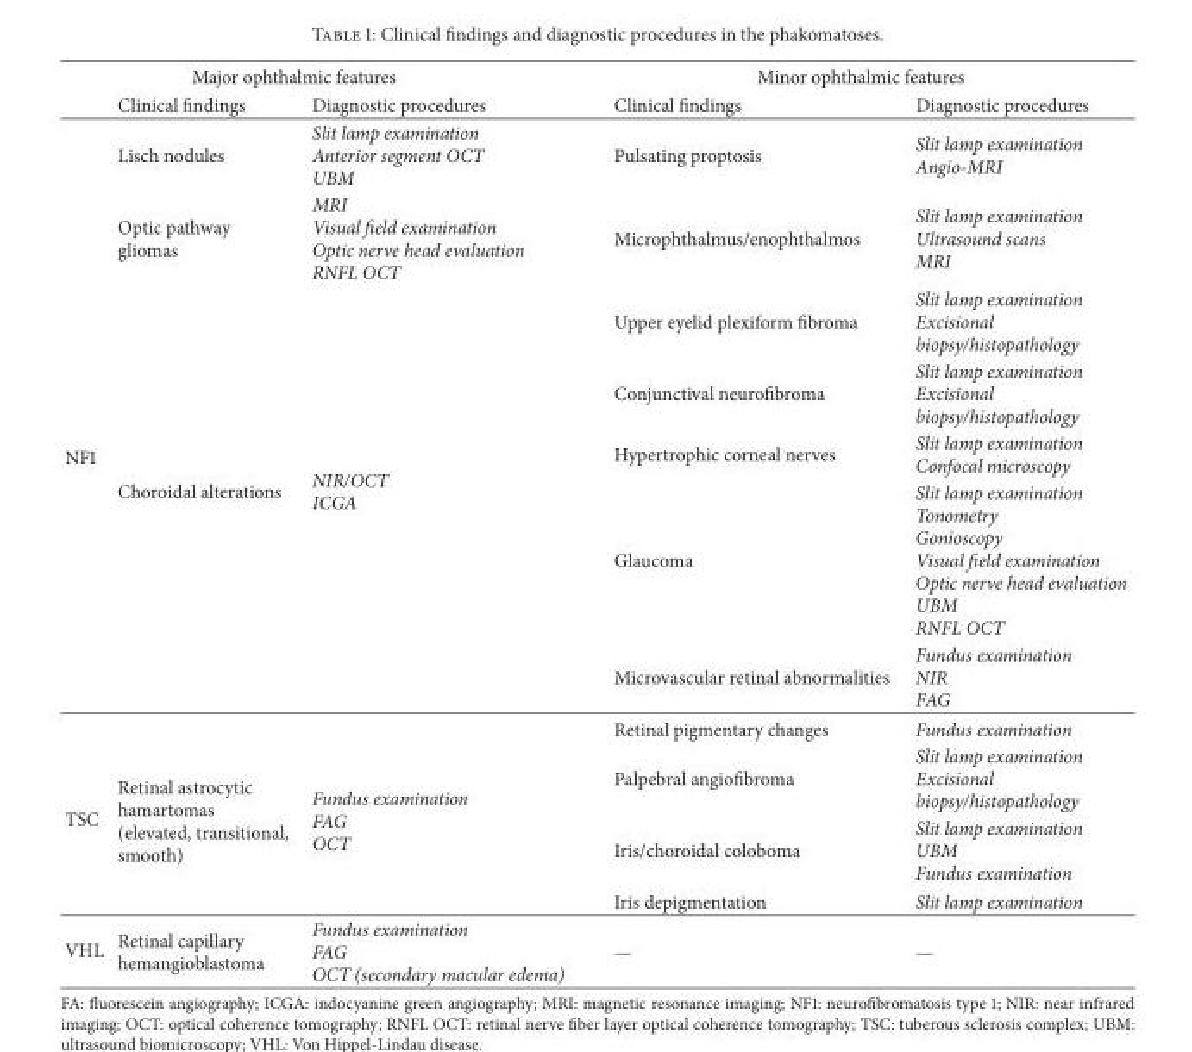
<table><thead><tr><td rowspan="2"></td><td colspan="2">Major ophthalmic features</td><td colspan="2">Minor ophthalmic features</td></tr><tr><td>Clinical findings</td><td>Diagnostic procedures</td><td>Clinical findings</td><td>Diagnostic procedures</td></tr></thead><tbody><tr><td rowspan="7">NF1</td><td>Lisch nodules</td><td>Slit lamp examination Anterior segment OCT UBM</td><td>Pulsating proptosis</td><td>Slit lamp examination Angio-MRI</td></tr><tr><td>Optic pathway gliomas</td><td>MRI Visual field examination Optic nerve head evaluation RNFL OCT</td><td>Microphthalmus/enophthalmos</td><td>Slit lamp examination Ultrasound scans MRI</td></tr><tr><td rowspan="5">Choroidal alterations</td><td rowspan="5">NIR/OCT ICGA</td><td>Upper eyelid plexiform fibroma</td><td>Slit lamp examination Excisional biopsy/histopathology</td></tr><tr><td>Conjunctival neurofibroma</td><td>Slit lamp examination Excisional biopsy/histopathology</td></tr><tr><td>Hypertrophic corneal nerves</td><td>Slit lamp examination Confocal microscopy</td></tr><tr><td>Glaucoma</td><td>Slit lamp examination Tonometry Gonioscopy Visual field examination Optic nerve head evaluation UBM RNFL OCT</td></tr><tr><td>Microvascular retinal abnormalities</td><td>Fundus examination NIR FAG</td></tr><tr><td rowspan="4">TSC</td><td rowspan="4">Retinal astrocytic hamartomas (elevated, transitional, smooth)</td><td rowspan="4">Fundus examination FAG OCT</td><td>Retinal pigmentary changes</td><td>Fundus examination</td></tr><tr><td>Palpebral angiofibroma</td><td>Slit lamp examination Excisional biopsy/histopathology</td></tr><tr><td>Iris/choroidal coloboma</td><td>Slit lamp examination UBM Fundus examination</td></tr><tr><td>Iris depigmentation</td><td>Slit lamp examination</td></tr><tr><td>VHL</td><td>Retinal capillary hemangioblastoma</td><td>Fundus examination FAG OCT (secondary macular edema)</td><td>—</td><td>—</td></tr></tbody></table>